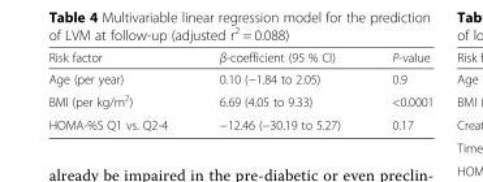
<table><thead><tr><td>Risk factor</td><td>β-coefficient (95 % CI)</td><td>P-value</td></tr></thead><tbody><tr><td>Age (per year)</td><td>0.10 (−1.84 to 2.05)</td><td>0.9</td></tr><tr><td>BMI (per kg/m<sup>2</sup>)</td><td>6.69 (4.05 to 9.33)</td><td>&lt;0.0001</td></tr><tr><td>HOMA-%S Q1 vs. Q2-4</td><td>−12.46 (−30.19 to 5.27)</td><td>0.17</td></tr></tbody></table>